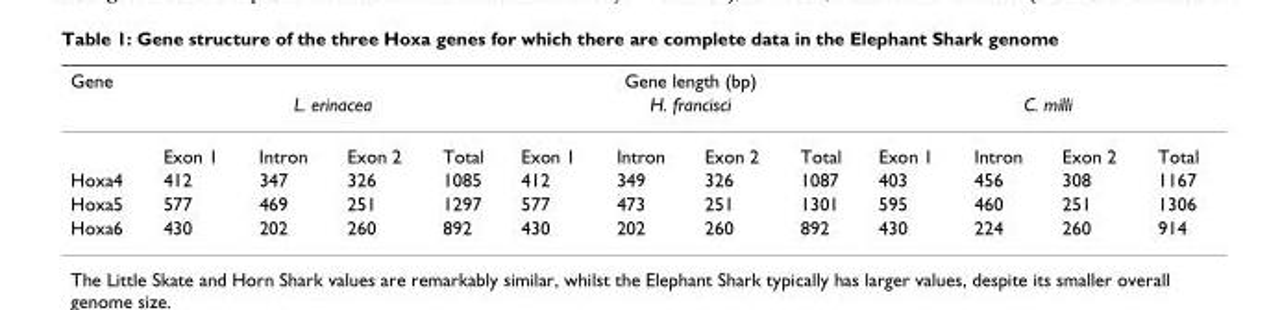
<table><thead><tr><td rowspan="3">Gene</td><td colspan="12">Gene length (bp)</td></tr><tr><td colspan="4">L. erinacea</td><td colspan="4">H. francisci</td><td colspan="4">C. milli</td></tr><tr><td>Exon 1</td><td>Intron</td><td>Exon 2</td><td>Total</td><td>Exon 1</td><td>Intron</td><td>Exon 2</td><td>Total</td><td>Exon 1</td><td>Intron</td><td>Exon 2</td><td>Total</td></tr></thead><tbody><tr><td>Hoxa4</td><td>412</td><td>347</td><td>326</td><td>1085</td><td>412</td><td>349</td><td>326</td><td>1087</td><td>403</td><td>456</td><td>308</td><td>1167</td></tr><tr><td>Hoxa5</td><td>577</td><td>469</td><td>251</td><td>1297</td><td>577</td><td>473</td><td>251</td><td>1301</td><td>595</td><td>460</td><td>251</td><td>1306</td></tr><tr><td>Hoxa6</td><td>430</td><td>202</td><td>260</td><td>892</td><td>430</td><td>202</td><td>260</td><td>892</td><td>430</td><td>224</td><td>260</td><td>914</td></tr></tbody></table>